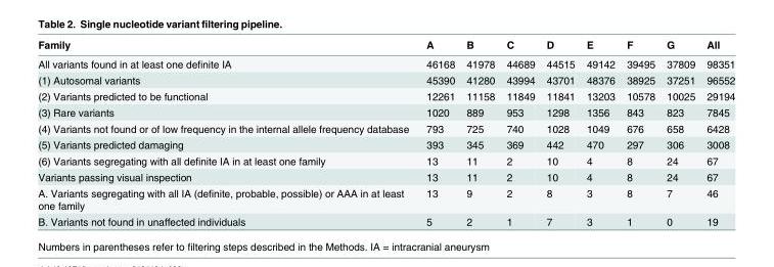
<table><thead><tr><td>Family</td><td>A</td><td>B</td><td>C</td><td>D</td><td>E</td><td>F</td><td>G</td><td>All</td></tr></thead><tbody><tr><td>All variants found in at least one definite IA</td><td>46168</td><td>41978</td><td>44689</td><td>44515</td><td>49142</td><td>39495</td><td>37809</td><td>98351</td></tr><tr><td>(1) Autosomal variants</td><td>45390</td><td>41280</td><td>43994</td><td>43701</td><td>48376</td><td>38925</td><td>37251</td><td>96552</td></tr><tr><td>(2) Variants predicted to be functional</td><td>12261</td><td>11158</td><td>11849</td><td>11841</td><td>13203</td><td>10578</td><td>10025</td><td>29194</td></tr><tr><td>(3) Rare variants</td><td>1020</td><td>889</td><td>953</td><td>1298</td><td>1356</td><td>843</td><td>823</td><td>7845</td></tr><tr><td>(4) Variants not found or of low frequency in the internal allele frequency database</td><td>793</td><td>725</td><td>740</td><td>1028</td><td>1049</td><td>676</td><td>658</td><td>6428</td></tr><tr><td>(5) Variants predicted damaging</td><td>393</td><td>345</td><td>369</td><td>442</td><td>470</td><td>297</td><td>306</td><td>3008</td></tr><tr><td>(6) Variants segregating with all definite IA in at least one family</td><td>13</td><td>11</td><td>2</td><td>10</td><td>4</td><td>8</td><td>24</td><td>67</td></tr><tr><td>Variants passing visual inspection</td><td>13</td><td>11</td><td>2</td><td>10</td><td>4</td><td>8</td><td>24</td><td>67</td></tr><tr><td>A. Variants segregating with all IA (definite, probable, possible) or AAA in at least one family</td><td>13</td><td>9</td><td>2</td><td>8</td><td>3</td><td>8</td><td>7</td><td>46</td></tr><tr><td>B. Variants not found in unaffected individuals</td><td>5</td><td>2</td><td>1</td><td>7</td><td>3</td><td>1</td><td>0</td><td>19</td></tr></tbody></table>